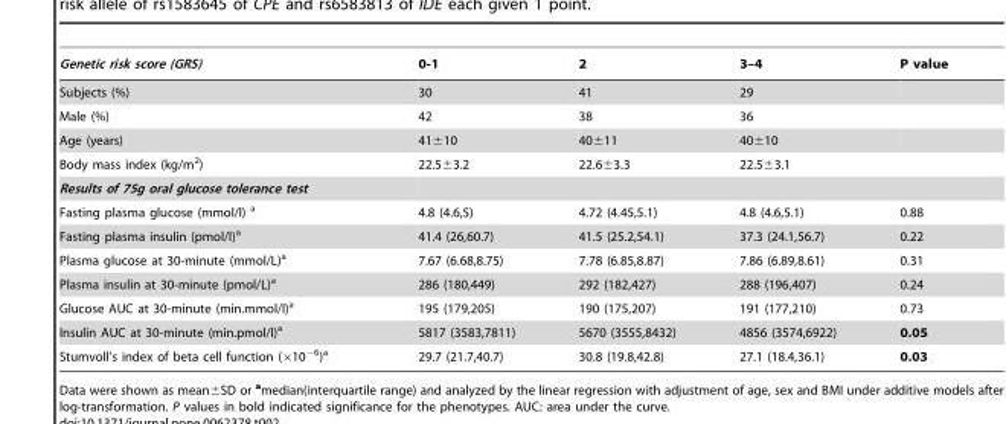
<table><thead><tr><td>Genetic risk score (GRS)</td><td>0-1</td><td>2</td><td>3–4</td><td>P value</td></tr></thead><tbody><tr><td>Subjects (%)</td><td>30</td><td>41</td><td>29</td><td></td></tr><tr><td>Male (%)</td><td>42</td><td>38</td><td>36</td><td></td></tr><tr><td>Age (years)</td><td>41±10</td><td>40±11</td><td>40±10</td><td></td></tr><tr><td>Body mass index (kg/m<sup>2</sup>)</td><td>22.5±3.2</td><td>22.6±3.3</td><td>22.5±3.1</td><td></td></tr><tr><td colspan="5">Results of 75g oral glucose tolerance test</td></tr><tr><td>Fasting plasma glucose (mmol/l) <sup>a</sup></td><td>4.8 (4.6,5)</td><td>4.72 (4.45,5.1)</td><td>4.8 (4.6,5.1)</td><td>0.88</td></tr><tr><td>Fasting plasma insulin (pmol/l)<sup>a</sup></td><td>41.4 (26,60.7)</td><td>41.5 (25.2,54.1)</td><td>37.3 (24.1,56.7)</td><td>0.22</td></tr><tr><td>Plasma glucose at 30-minute (mmol/L)<sup>a</sup></td><td>7.67 (6.68,8.75)</td><td>7.78 (6.85,8.87)</td><td>7.86 (6.89,8.61)</td><td>0.31</td></tr><tr><td>Plasma insulin at 30-minute (pmol/L)<sup>a</sup></td><td>286 (180,449)</td><td>292 (182,427)</td><td>288 (196,407)</td><td>0.24</td></tr><tr><td>Glucose AUC at 30-minute (min.mmol/l)<sup>a</sup></td><td>195 (179,205)</td><td>190 (175,207)</td><td>191 (177,210)</td><td>0.73</td></tr><tr><td>Insulin AUC at 30-minute (min.pmol/l)<sup>a</sup></td><td>5817 (3583,7811)</td><td>5670 (3555,8432)</td><td>4856 (3574,6922)</td><td>0.05</td></tr><tr><td>Stumvoll’s index of beta cell function (×10<sup>−6</sup>)<sup>a</sup></td><td>29.7 (21.7,40.7)</td><td>30.8 (19.8,42.8)</td><td>27.1 (18.4,36.1)</td><td>0.03</td></tr></tbody></table>